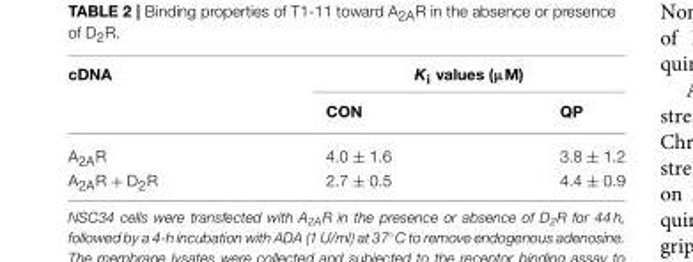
<table><thead><tr><td rowspan="2">cDNA</td><td colspan="2">K<sub>i</sub> values (µM)</td></tr><tr><td>CON</td><td>QP</td></tr></thead><tbody><tr><td>A<sub>2A</sub>R</td><td>4.0 ± 1.6</td><td>3.8 ± 1.2</td></tr><tr><td>A<sub>2A</sub>R + D<sub>2</sub>R</td><td>2.7 ± 0.5</td><td>4.4 ± 0.9</td></tr></tbody></table>